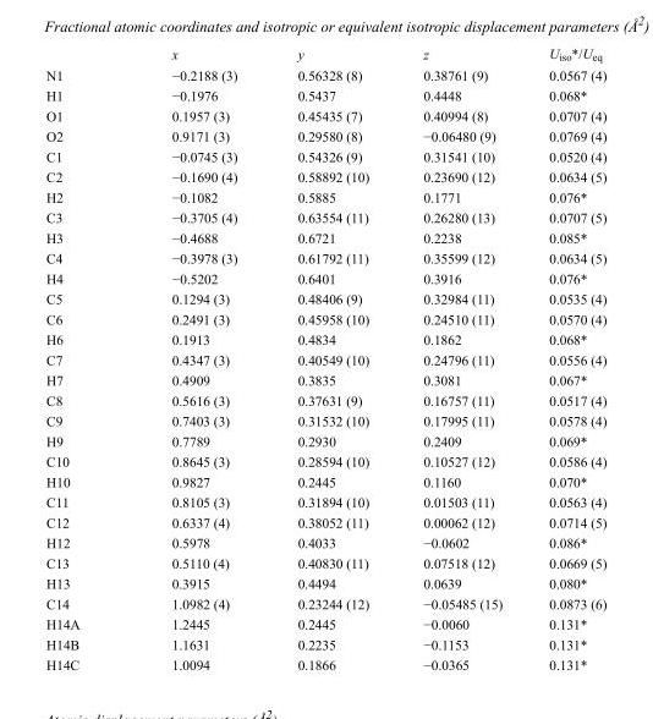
<table><thead><tr><td></td><td>x</td><td>y</td><td>z</td><td>U<sub>iso</sub>*/U<sub>eq</sub></td></tr></thead><tbody><tr><td>N1</td><td>−0.2188 (3)</td><td>0.56328 (8)</td><td>0.38761 (9)</td><td>0.0567 (4)</td></tr><tr><td>H1</td><td>−0.1976</td><td>0.5437</td><td>0.4448</td><td>0.068*</td></tr><tr><td>O1</td><td>0.1957 (3)</td><td>0.45435 (7)</td><td>0.40994 (8)</td><td>0.0707 (4)</td></tr><tr><td>O2</td><td>0.9171 (3)</td><td>0.29580 (8)</td><td>−0.06480 (9)</td><td>0.0769 (4)</td></tr><tr><td>C1</td><td>−0.0745 (3)</td><td>0.54326 (9)</td><td>0.31541 (10)</td><td>0.0520 (4)</td></tr><tr><td>C2</td><td>−0.1690 (4)</td><td>0.58892 (10)</td><td>0.23690 (12)</td><td>0.0634 (5)</td></tr><tr><td>H2</td><td>−0.1082</td><td>0.5885</td><td>0.1771</td><td>0.076*</td></tr><tr><td>C3</td><td>−0.3705 (4)</td><td>0.63554 (11)</td><td>0.26280 (13)</td><td>0.0707 (5)</td></tr><tr><td>H3</td><td>−0.4688</td><td>0.6721</td><td>0.2238</td><td>0.085*</td></tr><tr><td>C4</td><td>−0.3978 (3)</td><td>0.61792 (11)</td><td>0.35599 (12)</td><td>0.0634 (5)</td></tr><tr><td>H4</td><td>−0.5202</td><td>0.6401</td><td>0.3916</td><td>0.076*</td></tr><tr><td>C5</td><td>0.1294 (3)</td><td>0.48406 (9)</td><td>0.32984 (11)</td><td>0.0535 (4)</td></tr><tr><td>C6</td><td>0.2491 (3)</td><td>0.45958 (10)</td><td>0.24510 (11)</td><td>0.0570 (4)</td></tr><tr><td>H6</td><td>0.1913</td><td>0.4834</td><td>0.1862</td><td>0.068*</td></tr><tr><td>C7</td><td>0.4347 (3)</td><td>0.40549 (10)</td><td>0.24796 (11)</td><td>0.0556 (4)</td></tr><tr><td>H7</td><td>0.4909</td><td>0.3835</td><td>0.3081</td><td>0.067*</td></tr><tr><td>C8</td><td>0.5616 (3)</td><td>0.37631 (9)</td><td>0.16757 (11)</td><td>0.0517 (4)</td></tr><tr><td>C9</td><td>0.7403 (3)</td><td>0.31532 (10)</td><td>0.17995 (11)</td><td>0.0578 (4)</td></tr><tr><td>H9</td><td>0.7789</td><td>0.2930</td><td>0.2409</td><td>0.069*</td></tr><tr><td>C10</td><td>0.8645 (3)</td><td>0.28594 (10)</td><td>0.10527 (12)</td><td>0.0586 (4)</td></tr><tr><td>H10</td><td>0.9827</td><td>0.2445</td><td>0.1160</td><td>0.070*</td></tr><tr><td>C11</td><td>0.8105 (3)</td><td>0.31894 (10)</td><td>0.01503 (11)</td><td>0.0563 (4)</td></tr><tr><td>C12</td><td>0.6337 (4)</td><td>0.38052 (11)</td><td>0.00062 (12)</td><td>0.0714 (5)</td></tr><tr><td>H12</td><td>0.5978</td><td>0.4033</td><td>−0.0602</td><td>0.086*</td></tr><tr><td>C13</td><td>0.5110 (4)</td><td>0.40830 (11)</td><td>0.07518 (12)</td><td>0.0669 (5)</td></tr><tr><td>H13</td><td>0.3915</td><td>0.4494</td><td>0.0639</td><td>0.080*</td></tr><tr><td>C14</td><td>1.0982 (4)</td><td>0.23244 (12)</td><td>−0.05485 (15)</td><td>0.0873 (6)</td></tr><tr><td>H14A</td><td>1.2445</td><td>0.2445</td><td>−0.0060</td><td>0.131*</td></tr><tr><td>H14B</td><td>1.1631</td><td>0.2235</td><td>−0.1153</td><td>0.131*</td></tr><tr><td>H14C</td><td>1.0094</td><td>0.1866</td><td>−0.0365</td><td>0.131*</td></tr></tbody></table>